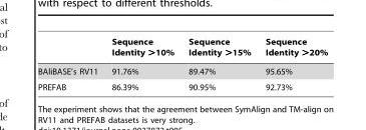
<table><thead><tr><td></td><td>Sequence Identity &gt;10%</td><td>Sequence Identity &gt;15%</td><td>Sequence Identity &gt;20%</td></tr></thead><tbody><tr><td>BAliBASE’s RV11</td><td>91.76%</td><td>89.47%</td><td>95.65%</td></tr><tr><td>PREFAB</td><td>86.39%</td><td>90.95%</td><td>92.73%</td></tr></tbody></table>